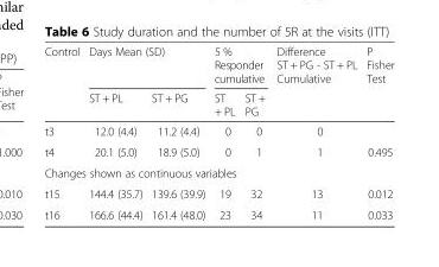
<table><thead><tr><td rowspan="2">Control</td><td colspan="2">Days Mean (SD)</td><td colspan="2">5 % Responder cumulative</td><td rowspan="2">Difference ST + PG - ST + PL Cumulative</td><td rowspan="2">P Fisher Test</td></tr><tr><td>ST + PL</td><td>ST + PG</td><td>ST + PL</td><td>ST + PG</td></tr></thead><tbody><tr><td>t3</td><td>12.0 (4.4)</td><td>11.2 (4.4)</td><td>0</td><td>0</td><td>0</td><td></td></tr><tr><td>t4</td><td>20.1 (5.0)</td><td>18.9 (5.0)</td><td>0</td><td>1</td><td>1</td><td>0.495</td></tr><tr><td colspan="7">Changes shown as continuous variables</td></tr><tr><td>t15</td><td>144.4 (35.7)</td><td>139.6 (39.9)</td><td>19</td><td>32</td><td>13</td><td>0.012</td></tr><tr><td>t16</td><td>166.6 (44.4)</td><td>161.4 (48.0)</td><td>23</td><td>34</td><td>11</td><td>0.033</td></tr></tbody></table>